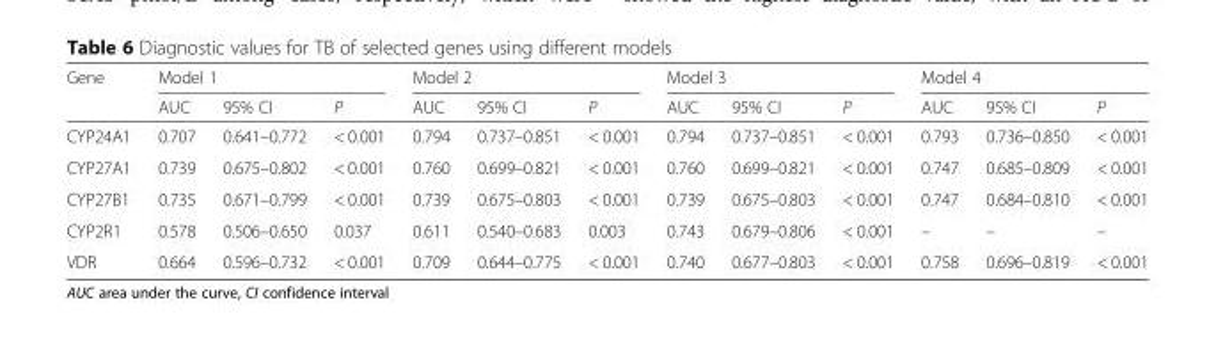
<table><thead><tr><td rowspan="2">Gene</td><td colspan="3">Model 1</td><td colspan="3">Model 2</td><td colspan="3">Model 3</td><td colspan="3">Model 4</td></tr><tr><td>AUC</td><td>95% CI</td><td>P</td><td>AUC</td><td>95% CI</td><td>P</td><td>AUC</td><td>95% CI</td><td>P</td><td>AUC</td><td>95% CI</td><td>P</td></tr></thead><tbody><tr><td>CYP24A1</td><td>0.707</td><td>0.641–0.772</td><td>&lt; 0.001</td><td>0.794</td><td>0.737–0.851</td><td>&lt; 0.001</td><td>0.794</td><td>0.737–0.851</td><td>&lt; 0.001</td><td>0.793</td><td>0.736–0.850</td><td>&lt; 0.001</td></tr><tr><td>CYP27A1</td><td>0.739</td><td>0.675–0.802</td><td>&lt; 0.001</td><td>0.760</td><td>0.699–0.821</td><td>&lt; 0.001</td><td>0.760</td><td>0.699–0.821</td><td>&lt; 0.001</td><td>0.747</td><td>0.685–0.809</td><td>&lt; 0.001</td></tr><tr><td>CYP27B1</td><td>0.735</td><td>0.671–0.799</td><td>&lt; 0.001</td><td>0.739</td><td>0.675–0.803</td><td>&lt; 0.001</td><td>0.739</td><td>0.675–0.803</td><td>&lt; 0.001</td><td>0.747</td><td>0.684–0.810</td><td>&lt; 0.001</td></tr><tr><td>CYP2R1</td><td>0.578</td><td>0.506–0.650</td><td>0.037</td><td>0.611</td><td>0.540–0.683</td><td>0.003</td><td>0.743</td><td>0.679–0.806</td><td>&lt; 0.001</td><td>–</td><td>–</td><td>–</td></tr><tr><td>VDR</td><td>0.664</td><td>0.596–0.732</td><td>&lt; 0.001</td><td>0.709</td><td>0.644–0.775</td><td>&lt; 0.001</td><td>0.740</td><td>0.677–0.803</td><td>&lt; 0.001</td><td>0.758</td><td>0.696–0.819</td><td>&lt; 0.001</td></tr></tbody></table>